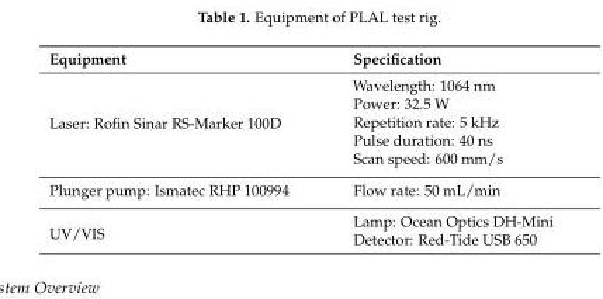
<table><thead><tr><td>Equipment</td><td>Specification</td></tr></thead><tbody><tr><td>Laser: Rofin Sinar RS-Marker 100D</td><td>Wavelength: 1064 nm Power: 32.5 W Repetition rate: 5 kHz Pulse duration: 40 ns Scan speed: 600 mm/s</td></tr><tr><td>Plunger pump: Ismatec RHP 100994</td><td>Flow rate: 50 mL/min</td></tr><tr><td>UV/VIS</td><td>Lamp: Ocean Optics DH-Mini Detector: Red-Tide USB 650</td></tr></tbody></table>